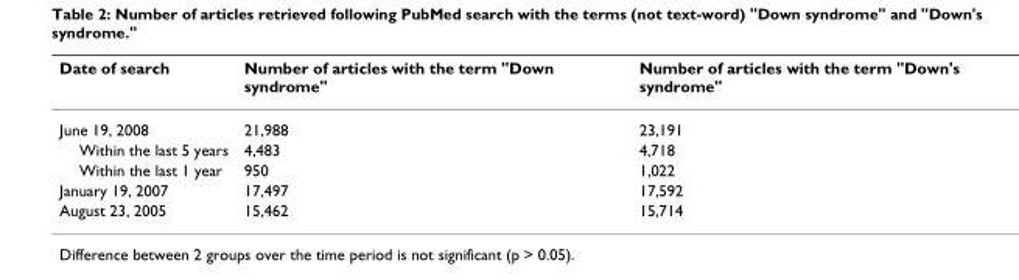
<table><thead><tr><td>Date of search</td><td>Number of articles with the term &quot;Down syndrome&quot;</td><td>Number of articles with the term &quot;Down&#x27;s syndrome&quot;</td></tr></thead><tbody><tr><td>June 19, 2008</td><td>21,988</td><td>23,191</td></tr><tr><td>Within the last 5 years</td><td>4,483</td><td>4,718</td></tr><tr><td>Within the last 1 year</td><td>950</td><td>1,022</td></tr><tr><td>January 19, 2007</td><td>17,497</td><td>17,592</td></tr><tr><td>August 23, 2005</td><td>15,462</td><td>15,714</td></tr></tbody></table>